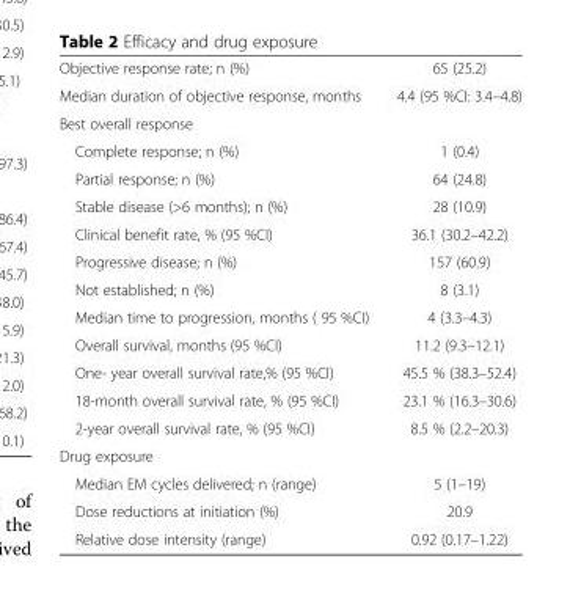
<table><tbody><tr><td>Objective response rate; n (%)</td><td>65 (25.2)</td></tr><tr><td>Median duration of objective response, months</td><td>4.4 (95 %CI: 3.4–4.8)</td></tr><tr><td colspan="2">Best overall response</td></tr><tr><td>Complete response; n (%)</td><td>1 (0.4)</td></tr><tr><td>Partial response; n (%)</td><td>64 (24.8)</td></tr><tr><td>Stable disease (&gt;6 months); n (%)</td><td>28 (10.9)</td></tr><tr><td>Clinical benefit rate, % (95 %CI)</td><td>36.1 (30.2–42.2)</td></tr><tr><td>Progressive disease; n (%)</td><td>157 (60.9)</td></tr><tr><td>Not established; n (%)</td><td>8 (3.1)</td></tr><tr><td>Median time to progression, months ( 95 %CI)</td><td>4 (3.3–4.3)</td></tr><tr><td>Overall survival, months (95 %CI)</td><td>11.2 (9.3–12.1)</td></tr><tr><td>One- year overall survival rate,% (95 %CI)</td><td>45.5 % (38.3–52.4)</td></tr><tr><td>18-month overall survival rate, % (95 %CI)</td><td>23.1 % (16.3–30.6)</td></tr><tr><td>2-year overall survival rate, % (95 %CI)</td><td>8.5 % (2.2–20.3)</td></tr><tr><td colspan="2">Drug exposure</td></tr><tr><td>Median EM cycles delivered; n (range)</td><td>5 (1–19)</td></tr><tr><td>Dose reductions at initiation (%)</td><td>20.9</td></tr><tr><td>Relative dose intensity (range)</td><td>0.92 (0.17–1.22)</td></tr></tbody></table>